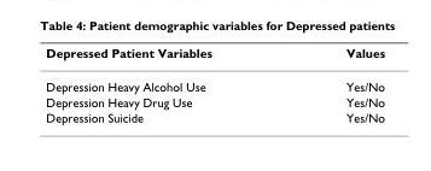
<table><thead><tr><td>Depressed Patient Variables</td><td>Values</td></tr></thead><tbody><tr><td>Depression Heavy Alcohol Use</td><td>Yes/No</td></tr><tr><td>Depression Heavy Drug Use</td><td>Yes/No</td></tr><tr><td>Depression Suicide</td><td>Yes/No</td></tr></tbody></table>